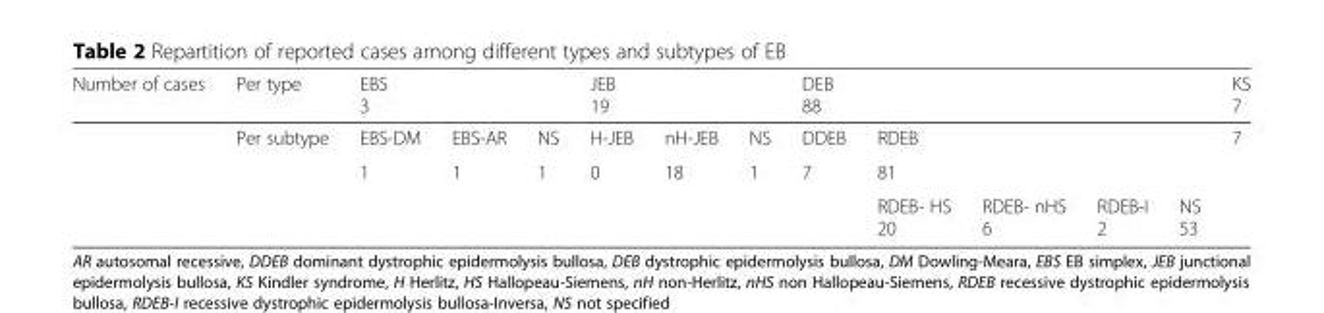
<table><thead><tr><td rowspan="4">Number of cases</td><td rowspan="4">Per type Per subtype</td><td colspan="3">EBS 3</td><td colspan="3">JEB 19</td><td colspan="5">DEB 88</td><td rowspan="4">KS 7 7</td></tr><tr><td rowspan="3">EBS-DM 1</td><td rowspan="3">EBS-AR 1</td><td rowspan="3">NS 1</td><td rowspan="3">H-JEB 0</td><td rowspan="3">nH-JEB 18</td><td rowspan="3">NS 1</td><td rowspan="3">DDEB 7</td><td rowspan="2" colspan="4">RDEB 81</td></tr><tr></tr><tr><td>RDEB- HS 20</td><td>RDEB- nHS 6</td><td>RDEB-I 2</td><td>NS 53</td></tr></thead><tbody></tbody></table>